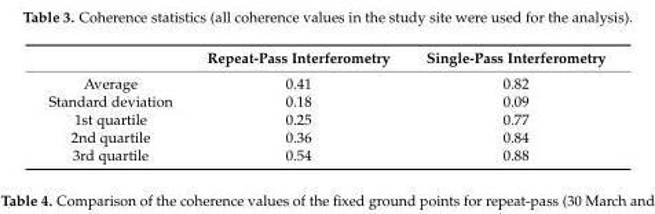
<table><thead><tr><td></td><td>Repeat-Pass Interferometry</td><td>Single-Pass Interferometry</td></tr></thead><tbody><tr><td>Average</td><td>0.41</td><td>0.82</td></tr><tr><td>Standard deviation</td><td>0.18</td><td>0.09</td></tr><tr><td>1st quartile</td><td>0.25</td><td>0.77</td></tr><tr><td>2nd quartile</td><td>0.36</td><td>0.84</td></tr><tr><td>3rd quartile</td><td>0.54</td><td>0.88</td></tr></tbody></table>